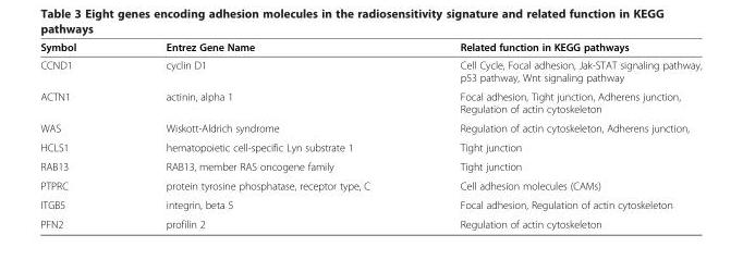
<table><thead><tr><td>Symbol</td><td>Entrez Gene Name</td><td>Related function in KEGG pathways</td></tr></thead><tbody><tr><td>CCND1</td><td>cyclin D1</td><td>Cell Cycle, Focal adhesion, Jak-STAT signaling pathway, p53 pathway, Wnt signaling pathway</td></tr><tr><td>ACTN1</td><td>actinin, alpha 1</td><td>Focal adhesion, Tight junction, Adherens junction, Regulation of actin cytoskeleton</td></tr><tr><td>WAS</td><td>Wiskott-Aldrich syndrome</td><td>Regulation of actin cytoskeleton, Adherens junction,</td></tr><tr><td>HCLS1</td><td>hematopoietic cell-specific Lyn substrate 1</td><td>Tight junction</td></tr><tr><td>RAB13</td><td>RAB13, member RAS oncogene family</td><td>Tight junction</td></tr><tr><td>PTPRC</td><td>protein tyrosine phosphatase, receptor type, C</td><td>Cell adhesion molecules (CAMs)</td></tr><tr><td>ITGB5</td><td>integrin, beta 5</td><td>Focal adhesion, Regulation of actin cytoskeleton</td></tr><tr><td>PFN2</td><td>profilin 2</td><td>Regulation of actin cytoskeleton</td></tr></tbody></table>